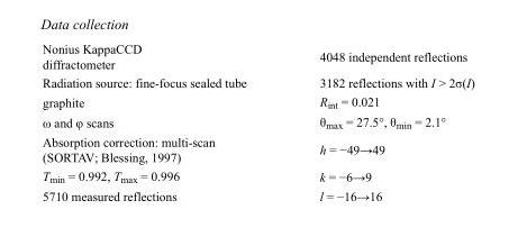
<table><tbody><tr><td>Nonius KappaCCD diffractometer</td><td>4048 independent reflections</td></tr><tr><td>Radiation source: fine-focus sealed tube</td><td>3182 reflections with I &gt; 2σ(I)</td></tr><tr><td>graphite</td><td>R<sub>int</sub> = 0.021</td></tr><tr><td>ω and φ scans</td><td>θ<sub>max</sub> = 27.5°, θ<sub>min</sub> = 2.1°</td></tr><tr><td>Absorption correction: multi-scan (SORTAV; Blessing, 1997)</td><td>h = −49→49</td></tr><tr><td>T<sub>min</sub> = 0.992, T<sub>max</sub> = 0.996</td><td>k = −6→9</td></tr><tr><td>5710 measured reflections</td><td>l = −16→16</td></tr></tbody></table>